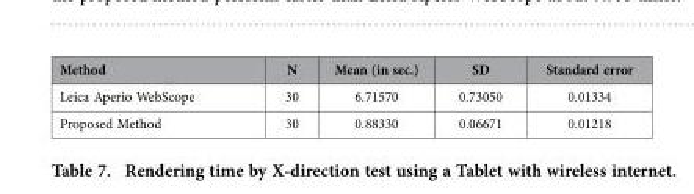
<table><thead><tr><td>Method</td><td>N</td><td>Mean (in sec.)</td><td>SD</td><td>Standard error</td></tr></thead><tbody><tr><td>Leica Aperio WebScope</td><td>30</td><td>6.71570</td><td>0.73050</td><td>0.01334</td></tr><tr><td>Proposed Method</td><td>30</td><td>0.88330</td><td>0.06671</td><td>0.01218</td></tr></tbody></table>